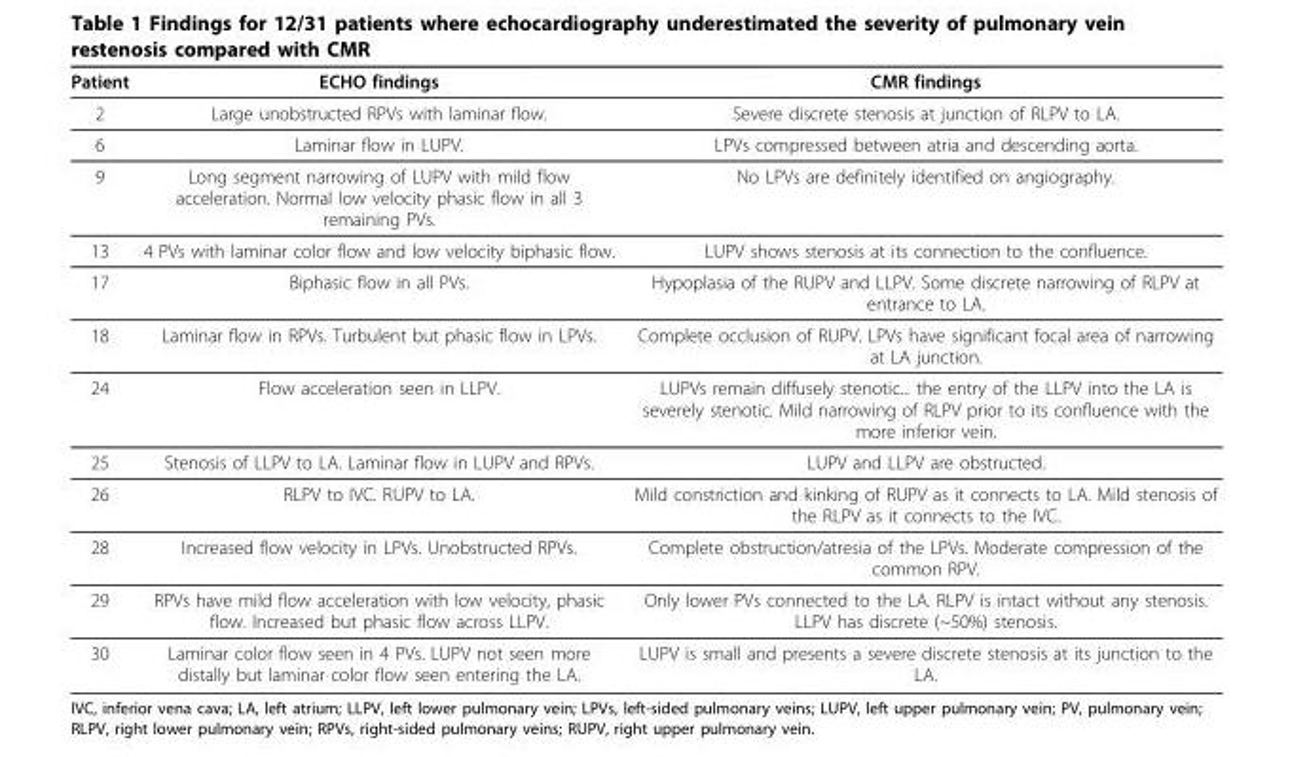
<table><thead><tr><td>Patient</td><td>ECHO findings</td><td>CMR findings</td></tr></thead><tbody><tr><td>2</td><td>Large unobstructed RPVs with laminar flow.</td><td>Severe discrete stenosis at junction of RLPV to LA.</td></tr><tr><td>6</td><td>Laminar flow in LUPV.</td><td>LPVs compressed between atria and descending aorta.</td></tr><tr><td>9</td><td>Long segment narrowing of LUPV with mild flow acceleration. Normal low velocity phasic flow in all 3 remaining PVs.</td><td>No LPVs are definitely identified on angiography.</td></tr><tr><td>13</td><td>4 PVs with laminar color flow and low velocity biphasic flow.</td><td>LUPV shows stenosis at its connection to the confluence.</td></tr><tr><td>17</td><td>Biphasic flow in all PVs.</td><td>Hypoplasia of the RUPV and LLPV. Some discrete narrowing of RLPV at entrance to LA.</td></tr><tr><td>18</td><td>Laminar flow in RPVs. Turbulent but phasic flow in LPVs.</td><td>Complete occlusion of RUPV. LPVs have significant focal area of narrowing at LA junction.</td></tr><tr><td>24</td><td>Flow acceleration seen in LLPV.</td><td>LUPVs remain diffusely stenotic... the entry of the LLPV into the LA is severely stenotic. Mild narrowing of RLPV prior to its confluence with the more inferior vein.</td></tr><tr><td>25</td><td>Stenosis of LLPV to LA. Laminar flow in LUPV and RPVs.</td><td>LUPV and LLPV are obstructed.</td></tr><tr><td>26</td><td>RLPV to IVC. RUPV to LA.</td><td>Mild constriction and kinking of RUPV as it connects to LA. Mild stenosis of the RLPV as it connects to the IVC.</td></tr><tr><td>28</td><td>Increased flow velocity in LPVs. Unobstructed RPVs.</td><td>Complete obstruction/atresia of the LPVs. Moderate compression of the common RPV.</td></tr><tr><td>29</td><td>RPVs have mild flow acceleration with low velocity, phasic flow. Increased but phasic flow across LLPV.</td><td>Only lower PVs connected to the LA. RLPV is intact without any stenosis. LLPV has discrete (~50%) stenosis.</td></tr><tr><td>30</td><td>Laminar color flow seen in 4 PVs. LUPV not seen more distally but laminar color flow seen entering the LA.</td><td>LUPV is small and presents a severe discrete stenosis at its junction to the LA.</td></tr></tbody></table>